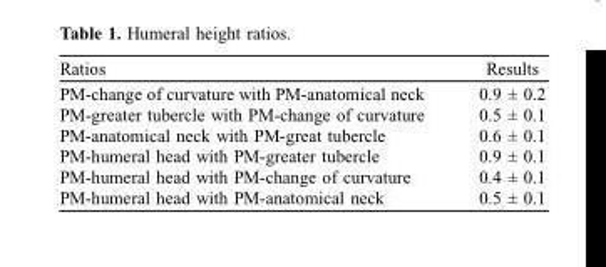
<table><thead><tr><td>Ratios</td><td>Results</td></tr></thead><tbody><tr><td>PM-change of curvature with PM-anatomical neck</td><td>0.9 ± 0.2</td></tr><tr><td>PM-greater tubercle with PM-change of curvature</td><td>0.5 ± 0.1</td></tr><tr><td>PM-anatomical neck with PM-great tubercle</td><td>0.6 ± 0.1</td></tr><tr><td>PM-humeral head with PM-greater tubercle</td><td>0.9 ± 0.1</td></tr><tr><td>PM-humeral head with PM-change of curvature</td><td>0.4 ± 0.1</td></tr><tr><td>PM-humeral head with PM-anatomical neck</td><td>0.5 ± 0.1</td></tr></tbody></table>